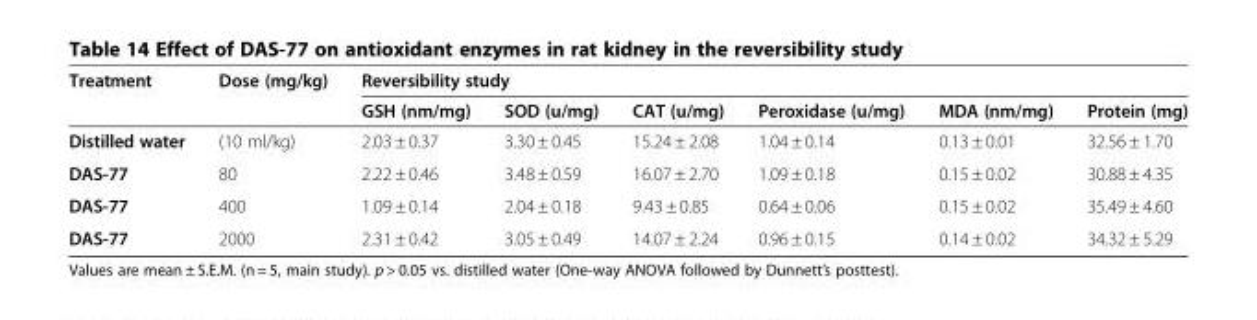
<table><thead><tr><td rowspan="2">Treatment</td><td rowspan="2">Dose (mg/kg)</td><td colspan="6">Reversibility study</td></tr><tr><td>GSH (nm/mg)</td><td>SOD (u/mg)</td><td>CAT (u/mg)</td><td>Peroxidase (u/mg)</td><td>MDA (nm/mg)</td><td>Protein (mg)</td></tr></thead><tbody><tr><td>Distilled water</td><td>(10 ml/kg)</td><td>2.03 ± 0.37</td><td>3.30 ± 0.45</td><td>15.24 ± 2.08</td><td>1.04 ± 0.14</td><td>0.13 ± 0.01</td><td>32.56 ± 1.70</td></tr><tr><td>DAS-77</td><td>80</td><td>2.22 ± 0.46</td><td>3.48 ± 0.59</td><td>16.07 ± 2.70</td><td>1.09 ± 0.18</td><td>0.15 ± 0.02</td><td>30.88 ± 4.35</td></tr><tr><td>DAS-77</td><td>400</td><td>1.09 ± 0.14</td><td>2.04 ± 0.18</td><td>9.43 ± 0.85</td><td>0.64 ± 0.06</td><td>0.15 ± 0.02</td><td>35.49 ± 4.60</td></tr><tr><td>DAS-77</td><td>2000</td><td>2.31 ± 0.42</td><td>3.05 ± 0.49</td><td>14.07 ± 2.24</td><td>0.96 ± 0.15</td><td>0.14 ± 0.02</td><td>34.32 ± 5.29</td></tr></tbody></table>